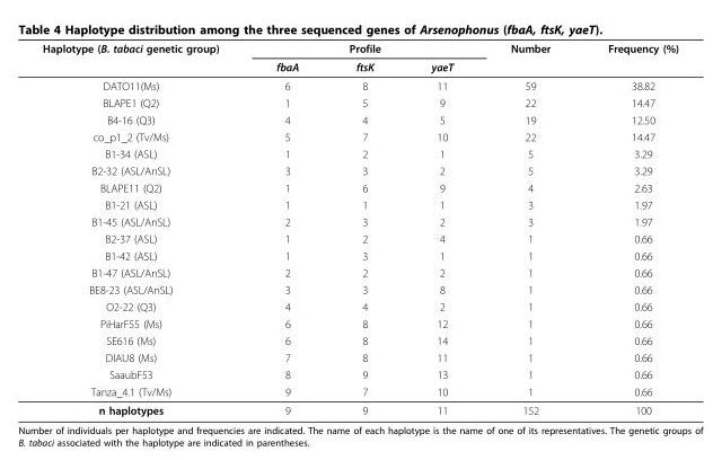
<table><thead><tr><td rowspan="2">Haplotype (B. tabaci genetic group)</td><td colspan="3">Profile</td><td rowspan="2">Number</td><td rowspan="2">Frequency (%)</td></tr><tr><td>fbaA</td><td>ftsK</td><td>yaeT</td></tr></thead><tbody><tr><td>DATO11(Ms)</td><td>6</td><td>8</td><td>11</td><td>59</td><td>38.82</td></tr><tr><td>BLAPE1 (Q2)</td><td>1</td><td>5</td><td>9</td><td>22</td><td>14.47</td></tr><tr><td>B4-16 (Q3)</td><td>4</td><td>4</td><td>5</td><td>19</td><td>12.50</td></tr><tr><td>co_p1_2 (Tv/Ms)</td><td>5</td><td>7</td><td>10</td><td>22</td><td>14.47</td></tr><tr><td>B1-34 (ASL)</td><td>1</td><td>2</td><td>1</td><td>5</td><td>3.29</td></tr><tr><td>B2-32 (ASL/AnSL)</td><td>3</td><td>3</td><td>2</td><td>5</td><td>3.29</td></tr><tr><td>BLAPE11 (Q2)</td><td>1</td><td>6</td><td>9</td><td>4</td><td>2.63</td></tr><tr><td>B1-21 (ASL)</td><td>1</td><td>1</td><td>1</td><td>3</td><td>1.97</td></tr><tr><td>B1-45 (ASL/AnSL)</td><td>2</td><td>3</td><td>2</td><td>3</td><td>1.97</td></tr><tr><td>B2-37 (ASL)</td><td>1</td><td>2</td><td>4</td><td>1</td><td>0.66</td></tr><tr><td>B1-42 (ASL)</td><td>1</td><td>3</td><td>1</td><td>1</td><td>0.66</td></tr><tr><td>B1-47 (ASL/AnSL)</td><td>2</td><td>2</td><td>2</td><td>1</td><td>0.66</td></tr><tr><td>BE8-23 (ASL/AnSL)</td><td>3</td><td>3</td><td>8</td><td>1</td><td>0.66</td></tr><tr><td>O2-22 (Q3)</td><td>4</td><td>4</td><td>2</td><td>1</td><td>0.66</td></tr><tr><td>PiHarF55 (Ms)</td><td>6</td><td>8</td><td>12</td><td>1</td><td>0.66</td></tr><tr><td>SE616 (Ms)</td><td>6</td><td>8</td><td>14</td><td>1</td><td>0.66</td></tr><tr><td>DIAU8 (Ms)</td><td>7</td><td>8</td><td>11</td><td>1</td><td>0.66</td></tr><tr><td>SaaubF53</td><td>8</td><td>9</td><td>13</td><td>1</td><td>0.66</td></tr><tr><td>Tanza_4.1 (Tv/Ms)</td><td>9</td><td>7</td><td>10</td><td>1</td><td>0.66</td></tr><tr><td>n haplotypes</td><td>9</td><td>9</td><td>11</td><td>152</td><td>100</td></tr></tbody></table>